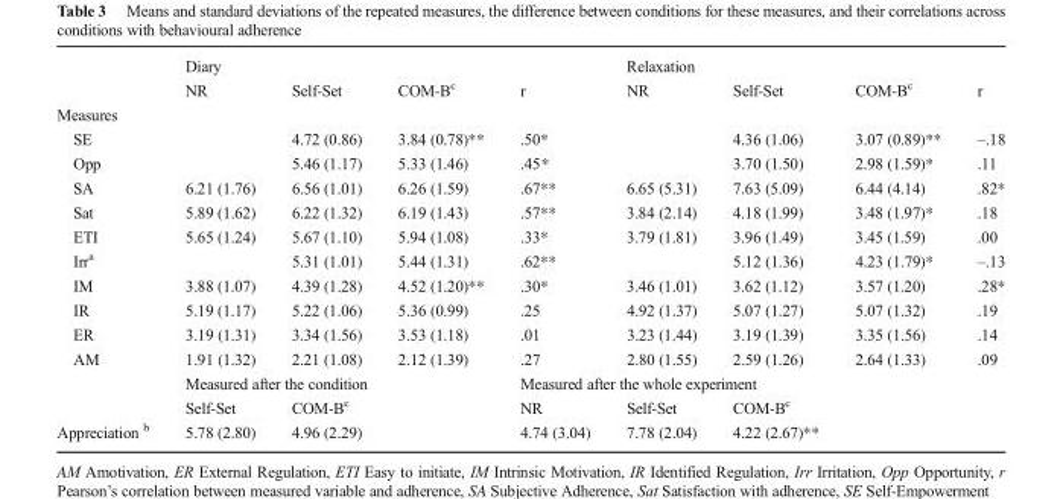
<table><thead><tr><td rowspan="2"></td><td colspan="4">Diary</td><td colspan="4">Relaxation</td></tr><tr><td>NR</td><td>Self-Set</td><td>COM-B<sup>c</sup></td><td>r</td><td>NR</td><td>Self-Set</td><td>COM-B<sup>c</sup></td><td>r</td></tr></thead><tbody><tr><td colspan="9">Measures</td></tr><tr><td>SE</td><td></td><td>4.72 (0.86)</td><td>3.84 (0.78)**</td><td>.50*</td><td></td><td>4.36 (1.06)</td><td>3.07 (0.89)**</td><td>–.18</td></tr><tr><td>Opp</td><td></td><td>5.46 (1.17)</td><td>5.33 (1.46)</td><td>.45*</td><td></td><td>3.70 (1.50)</td><td>2.98 (1.59)*</td><td>.11</td></tr><tr><td>SA</td><td>6.21 (1.76)</td><td>6.56 (1.01)</td><td>6.26 (1.59)</td><td>.67**</td><td>6.65 (5.31)</td><td>7.63 (5.09)</td><td>6.44 (4.14)</td><td>.82*</td></tr><tr><td>Sat</td><td>5.89 (1.62)</td><td>6.22 (1.32)</td><td>6.19 (1.43)</td><td>.57**</td><td>3.84 (2.14)</td><td>4.18 (1.99)</td><td>3.48 (1.97)*</td><td>.18</td></tr><tr><td>ETI</td><td>5.65 (1.24)</td><td>5.67 (1.10)</td><td>5.94 (1.08)</td><td>.33*</td><td>3.79 (1.81)</td><td>3.96 (1.49)</td><td>3.45 (1.59)</td><td>.00</td></tr><tr><td>Irr<sup>a</sup></td><td></td><td>5.31 (1.01)</td><td>5.44 (1.31)</td><td>.62**</td><td></td><td>5.12 (1.36)</td><td>4.23 (1.79)*</td><td>–.13</td></tr><tr><td>IM</td><td>3.88 (1.07)</td><td>4.39 (1.28)</td><td>4.52 (1.20)**</td><td>.30*</td><td>3.46 (1.01)</td><td>3.62 (1.12)</td><td>3.57 (1.20)</td><td>.28*</td></tr><tr><td>IR</td><td>5.19 (1.17)</td><td>5.22 (1.06)</td><td>5.36 (0.99)</td><td>.25</td><td>4.92 (1.37)</td><td>5.07 (1.27)</td><td>5.07 (1.32)</td><td>.19</td></tr><tr><td>ER</td><td>3.19 (1.31)</td><td>3.34 (1.56)</td><td>3.53 (1.18)</td><td>.01</td><td>3.23 (1.44)</td><td>3.19 (1.39)</td><td>3.35 (1.56)</td><td>.14</td></tr><tr><td rowspan="3">AM</td><td>1.91 (1.32)</td><td>2.21 (1.08)</td><td>2.12 (1.39)</td><td>.27</td><td>2.80 (1.55)</td><td>2.59 (1.26)</td><td>2.64 (1.33)</td><td>.09</td></tr><tr><td colspan="3">Measured after the condition</td><td colspan="5">Measured after the whole experiment</td></tr><tr><td>Self-Set</td><td>COM-B<sup>c</sup></td><td></td><td>NR</td><td>Self-Set</td><td>COM-B<sup>c</sup></td><td></td><td></td></tr><tr><td>Appreciation <sup>b</sup></td><td>5.78 (2.80)</td><td>4.96 (2.29)</td><td></td><td>4.74 (3.04)</td><td>7.78 (2.04)</td><td>4.22 (2.67)**</td><td></td><td></td></tr></tbody></table>